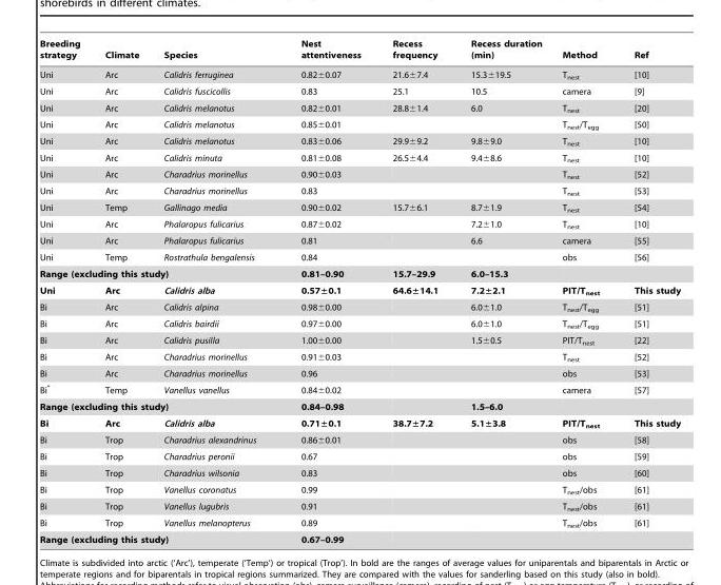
<table><thead><tr><td>Breeding strategy</td><td>Climate</td><td>Species</td><td>Nest attentiveness</td><td>Recess frequency</td><td>Recess duration (min)</td><td>Method</td><td>Ref</td></tr></thead><tbody><tr><td>Uni</td><td>Arc</td><td>Calidris ferruginea</td><td>0.82±0.07</td><td>21.6±7.4</td><td>15.3±19.5</td><td>T<sub>nest</sub></td><td>[10]</td></tr><tr><td>Uni</td><td>Arc</td><td>Calidris fuscicollis</td><td>0.83</td><td>25.1</td><td>10.5</td><td>camera</td><td>[9]</td></tr><tr><td>Uni</td><td>Arc</td><td>Calidris melanotus</td><td>0.82±0.01</td><td>28.8±1.4</td><td>6.0</td><td>T<sub>nest</sub></td><td>[20]</td></tr><tr><td>Uni</td><td>Arc</td><td>Calidris melanotus</td><td>0.85±0.01</td><td></td><td></td><td>T<sub>nest</sub>/T<sub>egg</sub></td><td>[50]</td></tr><tr><td>Uni</td><td>Arc</td><td>Calidris melanotus</td><td>0.83±0.06</td><td>29.9±9.2</td><td>9.8±9.0</td><td>T<sub>nest</sub></td><td>[10]</td></tr><tr><td>Uni</td><td>Arc</td><td>Calidris minuta</td><td>0.81±0.08</td><td>26.5±4.4</td><td>9.4±8.6</td><td>T<sub>nest</sub></td><td>[10]</td></tr><tr><td>Uni</td><td>Arc</td><td>Charadrius morinellus</td><td>0.90±0.03</td><td></td><td></td><td>T<sub>nest</sub></td><td>[52]</td></tr><tr><td>Uni</td><td>Arc</td><td>Charadrius morinellus</td><td>0.83</td><td></td><td></td><td>T<sub>nest</sub></td><td>[53]</td></tr><tr><td>Uni</td><td>Temp</td><td>Gallinago media</td><td>0.90±0.02</td><td>15.7±6.1</td><td>8.7±1.9</td><td>T<sub>nest</sub></td><td>[54]</td></tr><tr><td>Uni</td><td>Arc</td><td>Phalaropus fulicarius</td><td>0.87±0.02</td><td></td><td>7.2±1.0</td><td>T<sub>nest</sub></td><td>[10]</td></tr><tr><td>Uni</td><td>Arc</td><td>Phalaropus fulicarius</td><td>0.81</td><td></td><td>6.6</td><td>camera</td><td>[55]</td></tr><tr><td>Uni</td><td>Temp</td><td>Rostrathula bengalensis</td><td>0.84</td><td></td><td></td><td>obs</td><td>[56]</td></tr><tr><td colspan="3">Range (excluding this study)</td><td>0.81–0.90</td><td>15.7–29.9</td><td>6.0–15.3</td><td></td><td></td></tr><tr><td>Uni</td><td>Arc</td><td>Calidris alba</td><td>0.57±0.1</td><td>64.6±14.1</td><td>7.2±2.1</td><td>PIT/T<sub>nest</sub></td><td>This study</td></tr><tr><td>Bi</td><td>Arc</td><td>Calidris alpina</td><td>0.98±0.00</td><td></td><td>6.0±1.0</td><td>T<sub>nest</sub>/T<sub>egg</sub></td><td>[51]</td></tr><tr><td>Bi</td><td>Arc</td><td>Calidris bairdii</td><td>0.97±0.00</td><td></td><td>6.0±1.0</td><td>T<sub>nest</sub>/T<sub>egg</sub></td><td>[51]</td></tr><tr><td>Bi</td><td>Arc</td><td>Calidris pusilla</td><td>1.00±0.00</td><td></td><td>1.5±0.5</td><td>PIT/T<sub>nest</sub></td><td>[22]</td></tr><tr><td>Bi</td><td>Arc</td><td>Charadrius morinellus</td><td>0.91±0.03</td><td></td><td></td><td>T<sub>nest</sub></td><td>[52]</td></tr><tr><td>Bi</td><td>Arc</td><td>Charadrius morinellus</td><td>0.96</td><td></td><td></td><td>obs</td><td>[53]</td></tr><tr><td>Bi*</td><td>Temp</td><td>Vanellus vanellus</td><td>0.84±0.02</td><td></td><td></td><td>camera</td><td>[57]</td></tr><tr><td colspan="3">Range (excluding this study)</td><td>0.84–0.98</td><td></td><td>1.5–6.0</td><td></td><td></td></tr><tr><td>Bi</td><td>Arc</td><td>Calidris alba</td><td>0.71±0.1</td><td>38.7±7.2</td><td>5.1±3.8</td><td>PIT/T<sub>nest</sub></td><td>This study</td></tr><tr><td>Bi</td><td>Trop</td><td>Charadrius alexandrinus</td><td>0.86±0.01</td><td></td><td></td><td>obs</td><td>[58]</td></tr><tr><td>Bi</td><td>Trop</td><td>Charadrius peronii</td><td>0.67</td><td></td><td></td><td>obs</td><td>[59]</td></tr><tr><td>Bi</td><td>Trop</td><td>Charadrius wilsonia</td><td>0.83</td><td></td><td></td><td>obs</td><td>[60]</td></tr><tr><td>Bi</td><td>Trop</td><td>Vanellus coronatus</td><td>0.99</td><td></td><td></td><td>T<sub>nest</sub>/obs</td><td>[61]</td></tr><tr><td>Bi</td><td>Trop</td><td>Vanellus lugubris</td><td>0.91</td><td></td><td></td><td>T<sub>nest</sub>/obs</td><td>[61]</td></tr><tr><td>Bi</td><td>Trop</td><td>Vanellus melanopterus</td><td>0.89</td><td></td><td></td><td>T<sub>nest</sub>/obs</td><td>[61]</td></tr><tr><td colspan="3">Range (excluding this study)</td><td>0.67–0.99</td><td></td><td></td><td></td><td></td></tr></tbody></table>